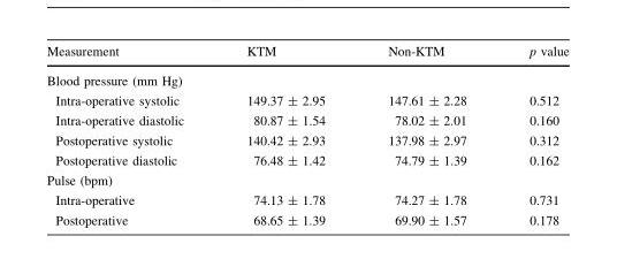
<table><thead><tr><td>Measurement</td><td>KTM</td><td>Non-KTM</td><td>p value</td></tr></thead><tbody><tr><td colspan="4">Blood pressure (mm Hg)</td></tr><tr><td>Intra-operative systolic</td><td>149.37 ± 2.95</td><td>147.61 ± 2.28</td><td>0.512</td></tr><tr><td>Intra-operative diastolic</td><td>80.87 ± 1.54</td><td>78.02 ± 2.01</td><td>0.160</td></tr><tr><td>Postoperative systolic</td><td>140.42 ± 2.93</td><td>137.98 ± 2.97</td><td>0.312</td></tr><tr><td>Postoperative diastolic</td><td>76.48 ± 1.42</td><td>74.79 ± 1.39</td><td>0.162</td></tr><tr><td colspan="4">Pulse (bpm)</td></tr><tr><td>Intra-operative</td><td>74.13 ± 1.78</td><td>74.27 ± 1.78</td><td>0.731</td></tr><tr><td>Postoperative</td><td>68.65 ± 1.39</td><td>69.90 ± 1.57</td><td>0.178</td></tr></tbody></table>